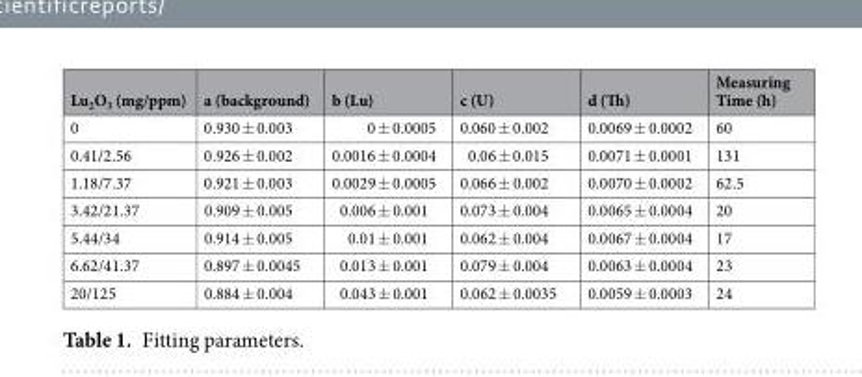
<table><thead><tr><td>Lu<sub>2</sub>O<sub>3</sub> (mg/ppm)</td><td>a (background)</td><td>b (Lu)</td><td>c (U)</td><td>d (Th)</td><td>Measuring Time (h)</td></tr></thead><tbody><tr><td>0</td><td>0.930 ± 0.003</td><td>0 ± 0.0005</td><td>0.060 ± 0.002</td><td>0.0069 ± 0.0002</td><td>60</td></tr><tr><td>0.41/2.56</td><td>0.926 ± 0.002</td><td>0.0016 ± 0.0004</td><td>0.06 ± 0.015</td><td>0.0071 ± 0.0001</td><td>131</td></tr><tr><td>1.18/7.37</td><td>0.921 ± 0.003</td><td>0.0029 ± 0.0005</td><td>0.066 ± 0.002</td><td>0.0070 ± 0.0002</td><td>62.5</td></tr><tr><td>3.42/21.37</td><td>0.909 ± 0.005</td><td>0.006 ± 0.001</td><td>0.073 ± 0.004</td><td>0.0065 ± 0.0004</td><td>20</td></tr><tr><td>5.44/34</td><td>0.914 ± 0.005</td><td>0.01 ± 0.001</td><td>0.062 ± 0.004</td><td>0.0067 ± 0.0004</td><td>17</td></tr><tr><td>6.62/41.37</td><td>0.897 ± 0.0045</td><td>0.013 ± 0.001</td><td>0.079 ± 0.004</td><td>0.0063 ± 0.0004</td><td>23</td></tr><tr><td>20/125</td><td>0.884 ± 0.004</td><td>0.043 ± 0.001</td><td>0.062 ± 0.0035</td><td>0.0059 ± 0.0003</td><td>24</td></tr></tbody></table>